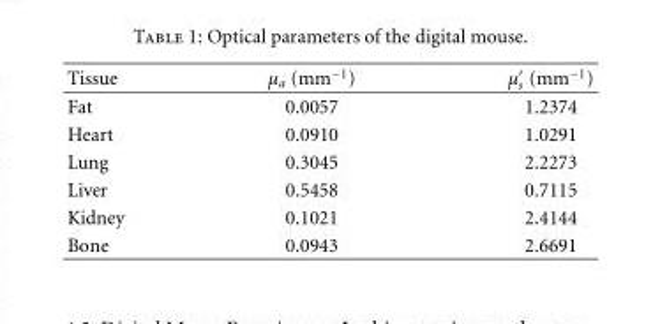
<table><thead><tr><td>Tissue</td><td>μ<sub>a</sub> (mm<sup>−1</sup>)</td><td>μ′ s (mm−1)</td></tr></thead><tbody><tr><td>Fat</td><td>0.0057</td><td>1.2374</td></tr><tr><td>Heart</td><td>0.0910</td><td>1.0291</td></tr><tr><td>Lung</td><td>0.3045</td><td>2.2273</td></tr><tr><td>Liver</td><td>0.5458</td><td>0.7115</td></tr><tr><td>Kidney</td><td>0.1021</td><td>2.4144</td></tr><tr><td>Bone</td><td>0.0943</td><td>2.6691</td></tr></tbody></table>